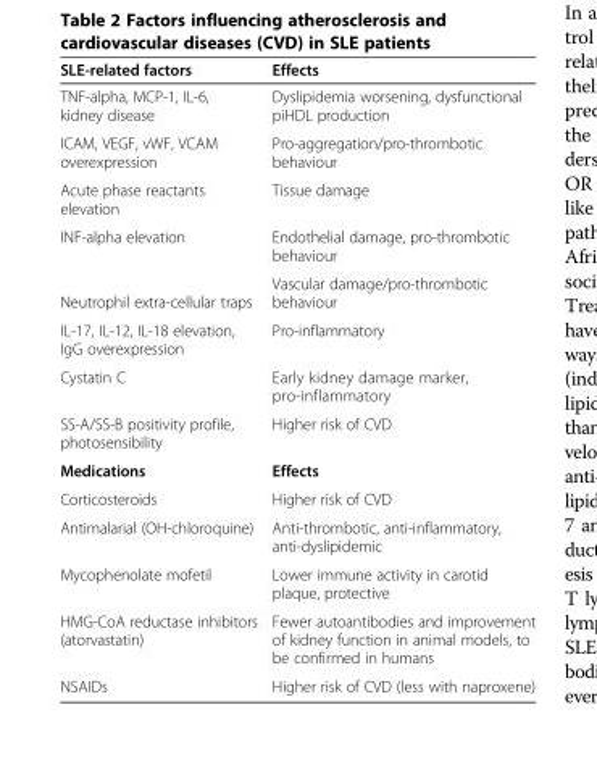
<table><thead><tr><td>SLE-related factors</td><td>Effects</td></tr></thead><tbody><tr><td>TNF-alpha, MCP-1, IL-6, kidney disease</td><td>Dyslipidemia worsening, dysfunctional piHDL production</td></tr><tr><td>ICAM, VEGF, vWF, VCAM overexpression</td><td>Pro-aggregation/pro-thrombotic behaviour</td></tr><tr><td>Acute phase reactants elevation</td><td>Tissue damage</td></tr><tr><td>INF-alpha elevation</td><td>Endothelial damage, pro-thrombotic behaviour</td></tr><tr><td>Neutrophil extra-cellular traps</td><td>Vascular damage/pro-thrombotic behaviour</td></tr><tr><td>IL-17, IL-12, IL-18 elevation, IgG overexpression</td><td>Pro-inflammatory</td></tr><tr><td>Cystatin C</td><td>Early kidney damage marker, pro-inflammatory</td></tr><tr><td>SS-A/SS-B positivity profile, photosensibility</td><td>Higher risk of CVD</td></tr><tr><td>Medications</td><td>Effects</td></tr><tr><td>Corticosteroids</td><td>Higher risk of CVD</td></tr><tr><td>Antimalarial (OH-chloroquine)</td><td>Anti-thrombotic, anti-inflammatory, anti-dyslipidemic</td></tr><tr><td>Mycophenolate mofetil</td><td>Lower immune activity in carotid plaque, protective</td></tr><tr><td>HMG-CoA reductase inhibitors (atorvastatin)</td><td>Fewer autoantibodies and improvement of kidney function in animal models, to be confirmed in humans</td></tr><tr><td>NSAIDs</td><td>Higher risk of CVD (less with naproxene)</td></tr></tbody></table>